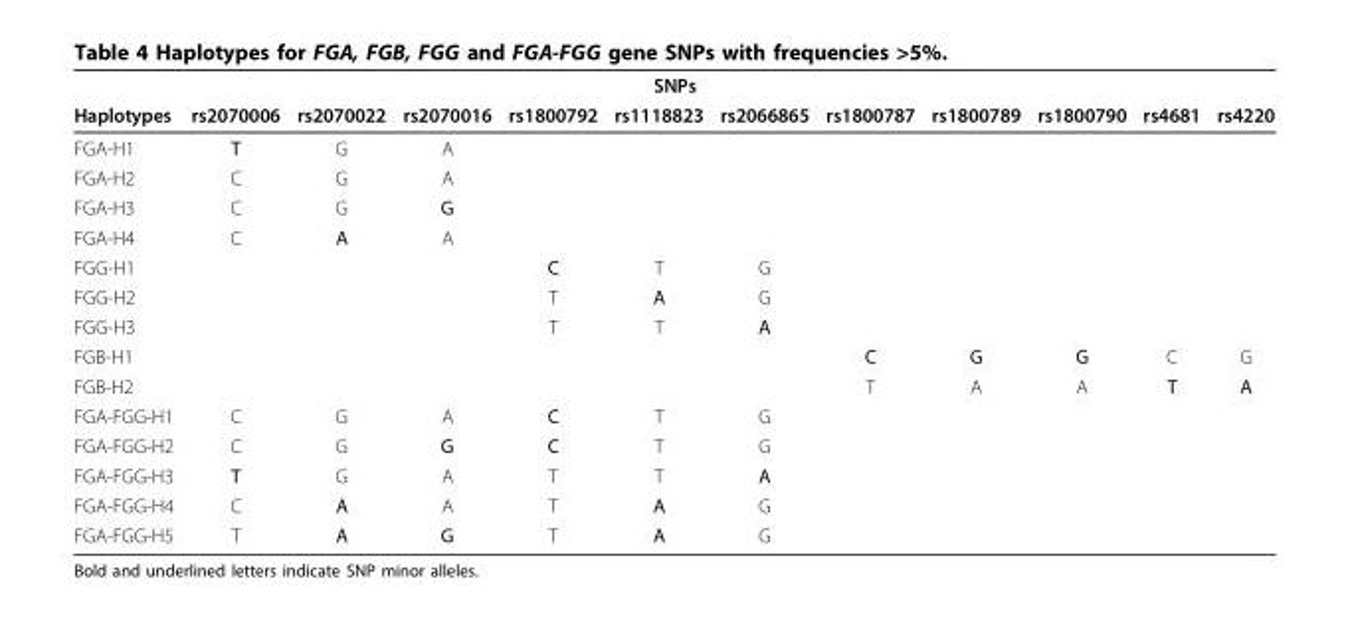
<table><thead><tr><td colspan="12">SNPs</td></tr><tr><td>Haplotypes</td><td>rs2070006</td><td>rs2070022</td><td>rs2070016</td><td>rs1800792</td><td>rs1118823</td><td>rs2066865</td><td>rs1800787</td><td>rs1800789</td><td>rs1800790</td><td>rs4681</td><td>rs4220</td></tr></thead><tbody><tr><td>FGA-H1</td><td>T</td><td>G</td><td>A</td><td></td><td></td><td></td><td></td><td></td><td></td><td></td><td></td></tr><tr><td>FGA-H2</td><td>C</td><td>G</td><td>A</td><td></td><td></td><td></td><td></td><td></td><td></td><td></td><td></td></tr><tr><td>FGA-H3</td><td>C</td><td>G</td><td>G</td><td></td><td></td><td></td><td></td><td></td><td></td><td></td><td></td></tr><tr><td>FGA-H4</td><td>C</td><td>A</td><td>A</td><td></td><td></td><td></td><td></td><td></td><td></td><td></td><td></td></tr><tr><td>FGG-H1</td><td></td><td></td><td></td><td>C</td><td>T</td><td>G</td><td></td><td></td><td></td><td></td><td></td></tr><tr><td>FGG-H2</td><td></td><td></td><td></td><td>T</td><td>A</td><td>G</td><td></td><td></td><td></td><td></td><td></td></tr><tr><td>FGG-H3</td><td></td><td></td><td></td><td>T</td><td>T</td><td>A</td><td></td><td></td><td></td><td></td><td></td></tr><tr><td>FGB-H1</td><td></td><td></td><td></td><td></td><td></td><td></td><td>C</td><td>G</td><td>G</td><td>C</td><td>G</td></tr><tr><td>FGB-H2</td><td></td><td></td><td></td><td></td><td></td><td></td><td>T</td><td>A</td><td>A</td><td>T</td><td>A</td></tr><tr><td>FGA-FGG-H1</td><td>C</td><td>G</td><td>A</td><td>C</td><td>T</td><td>G</td><td></td><td></td><td></td><td></td><td></td></tr><tr><td>FGA-FGG-H2</td><td>C</td><td>G</td><td>G</td><td>C</td><td>T</td><td>G</td><td></td><td></td><td></td><td></td><td></td></tr><tr><td>FGA-FGG-H3</td><td>T</td><td>G</td><td>A</td><td>T</td><td>T</td><td>A</td><td></td><td></td><td></td><td></td><td></td></tr><tr><td>FGA-FGG-H4</td><td>C</td><td>A</td><td>A</td><td>T</td><td>A</td><td>G</td><td></td><td></td><td></td><td></td><td></td></tr><tr><td>FGA-FGG-H5</td><td>T</td><td>A</td><td>G</td><td>T</td><td>A</td><td>G</td><td></td><td></td><td></td><td></td><td></td></tr></tbody></table>